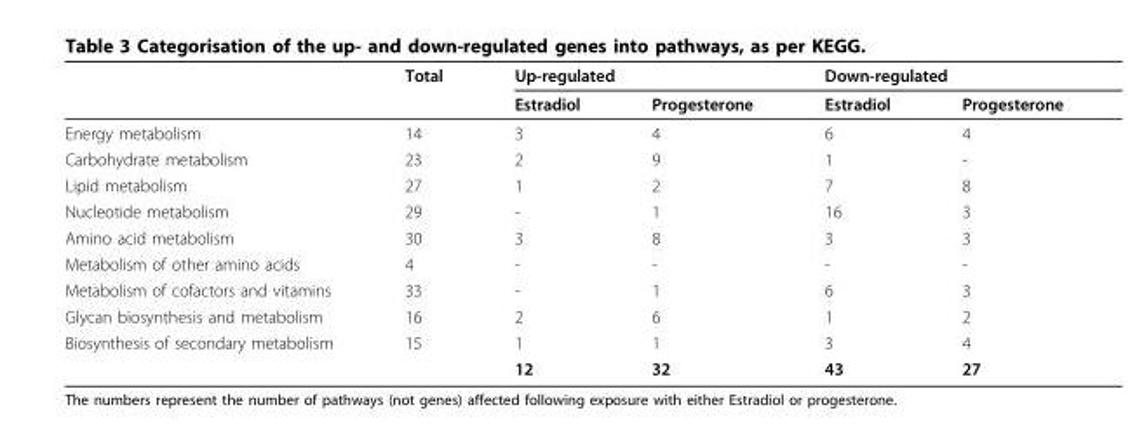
<table><thead><tr><td rowspan="2"></td><td rowspan="2">Total</td><td colspan="2">Up-regulated</td><td colspan="2">Down-regulated</td></tr><tr><td>Estradiol</td><td>Progesterone</td><td>Estradiol</td><td>Progesterone</td></tr></thead><tbody><tr><td>Energy metabolism</td><td>14</td><td>3</td><td>4</td><td>6</td><td>4</td></tr><tr><td>Carbohydrate metabolism</td><td>23</td><td>2</td><td>9</td><td>1</td><td>-</td></tr><tr><td>Lipid metabolism</td><td>27</td><td>1</td><td>2</td><td>7</td><td>8</td></tr><tr><td>Nucleotide metabolism</td><td>29</td><td>-</td><td>1</td><td>16</td><td>3</td></tr><tr><td>Amino acid metabolism</td><td>30</td><td>3</td><td>8</td><td>3</td><td>3</td></tr><tr><td>Metabolism of other amino acids</td><td>4</td><td>-</td><td>-</td><td>-</td><td>-</td></tr><tr><td>Metabolism of cofactors and vitamins</td><td>33</td><td>-</td><td>1</td><td>6</td><td>3</td></tr><tr><td>Glycan biosynthesis and metabolism</td><td>16</td><td>2</td><td>6</td><td>1</td><td>2</td></tr><tr><td rowspan="2">Biosynthesis of secondary metabolism</td><td>15</td><td>1</td><td>1</td><td>3</td><td>4</td></tr><tr><td></td><td>12</td><td>32</td><td>43</td><td>27</td></tr></tbody></table>